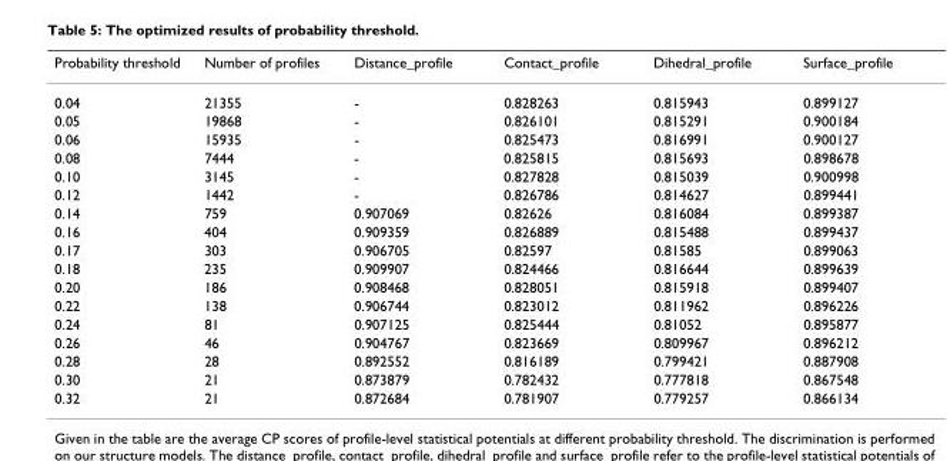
<table><thead><tr><td>Probability threshold</td><td>Number of profiles</td><td>Distance_profile</td><td>Contact_profile</td><td>Dihedral_profile</td><td>Surface_profile</td></tr></thead><tbody><tr><td>0.04</td><td>21355</td><td>-</td><td>0.828263</td><td>0.815943</td><td>0.899127</td></tr><tr><td>0.05</td><td>19868</td><td>-</td><td>0.826101</td><td>0.815291</td><td>0.900184</td></tr><tr><td>0.06</td><td>15935</td><td>-</td><td>0.825473</td><td>0.816991</td><td>0.900127</td></tr><tr><td>0.08</td><td>7444</td><td>-</td><td>0.825815</td><td>0.815693</td><td>0.898678</td></tr><tr><td>0.10</td><td>3145</td><td>-</td><td>0.827828</td><td>0.815039</td><td>0.900998</td></tr><tr><td>0.12</td><td>1442</td><td>-</td><td>0.826786</td><td>0.814627</td><td>0.899441</td></tr><tr><td>0.14</td><td>759</td><td>0.907069</td><td>0.82626</td><td>0.816084</td><td>0.899387</td></tr><tr><td>0.16</td><td>404</td><td>0.909359</td><td>0.826889</td><td>0.815488</td><td>0.899437</td></tr><tr><td>0.17</td><td>303</td><td>0.906705</td><td>0.82597</td><td>0.81585</td><td>0.899063</td></tr><tr><td>0.18</td><td>235</td><td>0.909907</td><td>0.824466</td><td>0.816644</td><td>0.899639</td></tr><tr><td>0.20</td><td>186</td><td>0.908468</td><td>0.828051</td><td>0.815918</td><td>0.899407</td></tr><tr><td>0.22</td><td>138</td><td>0.906744</td><td>0.823012</td><td>0.811962</td><td>0.896226</td></tr><tr><td>0.24</td><td>81</td><td>0.907125</td><td>0.825444</td><td>0.81052</td><td>0.895877</td></tr><tr><td>0.26</td><td>46</td><td>0.904767</td><td>0.823669</td><td>0.809967</td><td>0.896212</td></tr><tr><td>0.28</td><td>28</td><td>0.892552</td><td>0.816189</td><td>0.799421</td><td>0.887908</td></tr><tr><td>0.30</td><td>21</td><td>0.873879</td><td>0.782432</td><td>0.777818</td><td>0.867548</td></tr><tr><td>0.32</td><td>21</td><td>0.872684</td><td>0.781907</td><td>0.779257</td><td>0.866134</td></tr></tbody></table>